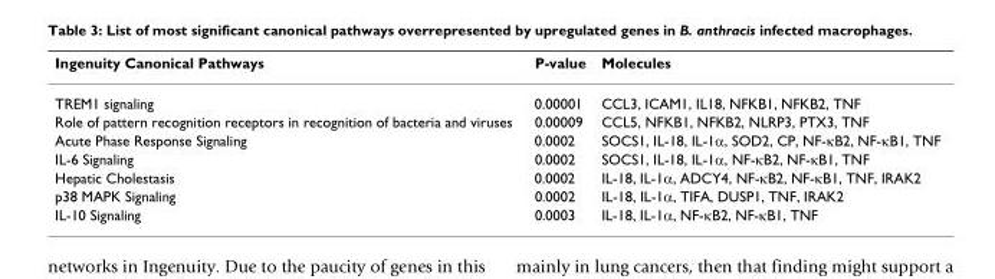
<table><thead><tr><td>Ingenuity Canonical Pathways</td><td>P-value</td><td>Molecules</td></tr></thead><tbody><tr><td>TREM1 signaling</td><td>0.00001</td><td>CCL3, ICAM1, IL18, NFKB1, NFKB2, TNF</td></tr><tr><td>Role of pattern recognition receptors in recognition of bacteria and viruses</td><td>0.00009</td><td>CCL5, NFKB1, NFKB2, NLRP3, PTX3, TNF</td></tr><tr><td>Acute Phase Response Signaling</td><td>0.0002</td><td>SOCS1, IL-18, IL-1α, SOD2, CP, NF-κB2, NF-κB1, TNF</td></tr><tr><td>IL-6 Signaling</td><td>0.0002</td><td>SOCS1, IL-18, IL-1α, NF-κB2, NF-κB1, TNF</td></tr><tr><td>Hepatic Cholestasis</td><td>0.0002</td><td>IL-18, IL-1α, ADCY4, NF-κB2, NF-κB1, TNF, IRAK2</td></tr><tr><td>p38 MAPK Signaling</td><td>0.0002</td><td>IL-18, IL-1α, TIFA, DUSP1, TNF, IRAK2</td></tr><tr><td>IL-10 Signaling</td><td>0.0003</td><td>IL-18, IL-1α, NF-κB2, NF-κB1, TNF</td></tr></tbody></table>